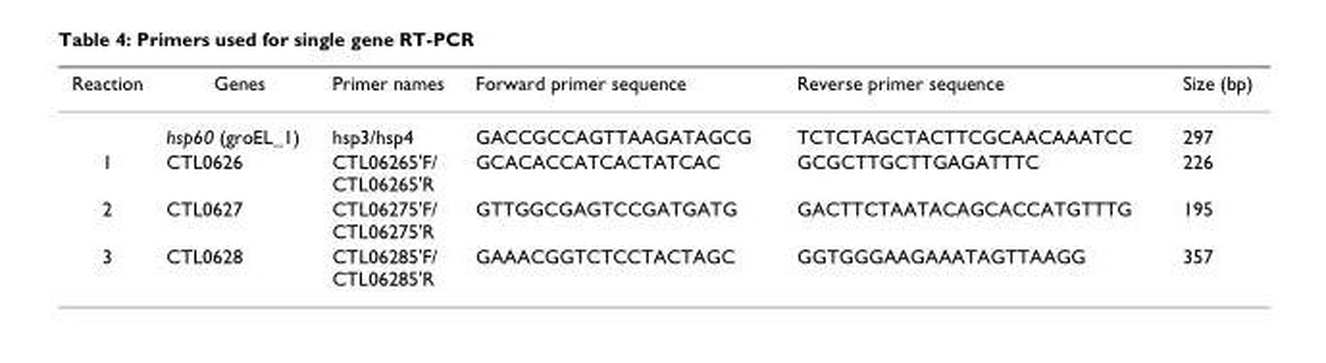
<table><thead><tr><td>Reaction</td><td>Genes</td><td>Primer names</td><td>Forward primer sequence</td><td>Reverse primer sequence</td><td>Size (bp)</td></tr></thead><tbody><tr><td></td><td>hsp60 (groEL_1)</td><td>hsp3/hsp4</td><td>GACCGCCAGTTAAGATAGCG</td><td>TCTCTAGCTACTTCGCAACAAATCC</td><td>297</td></tr><tr><td>1</td><td>CTL0626</td><td>CTL06265&#x27;F/ CTL06265&#x27;R</td><td>GCACACCATCACTATCAC</td><td>GCGCTTGCTTGAGATTTC</td><td>226</td></tr><tr><td>2</td><td>CTL0627</td><td>CTL06275&#x27;F/ CTL06275&#x27;R</td><td>GTTGGCGAGTCCGATGATG</td><td>GACTTCTAATACAGCACCATGTTTG</td><td>195</td></tr><tr><td>3</td><td>CTL0628</td><td>CTL06285&#x27;F/ CTL06285&#x27;R</td><td>GAAACGGTCTCCTACTAGC</td><td>GGTGGGAAGAAATAGTTAAGG</td><td>357</td></tr></tbody></table>